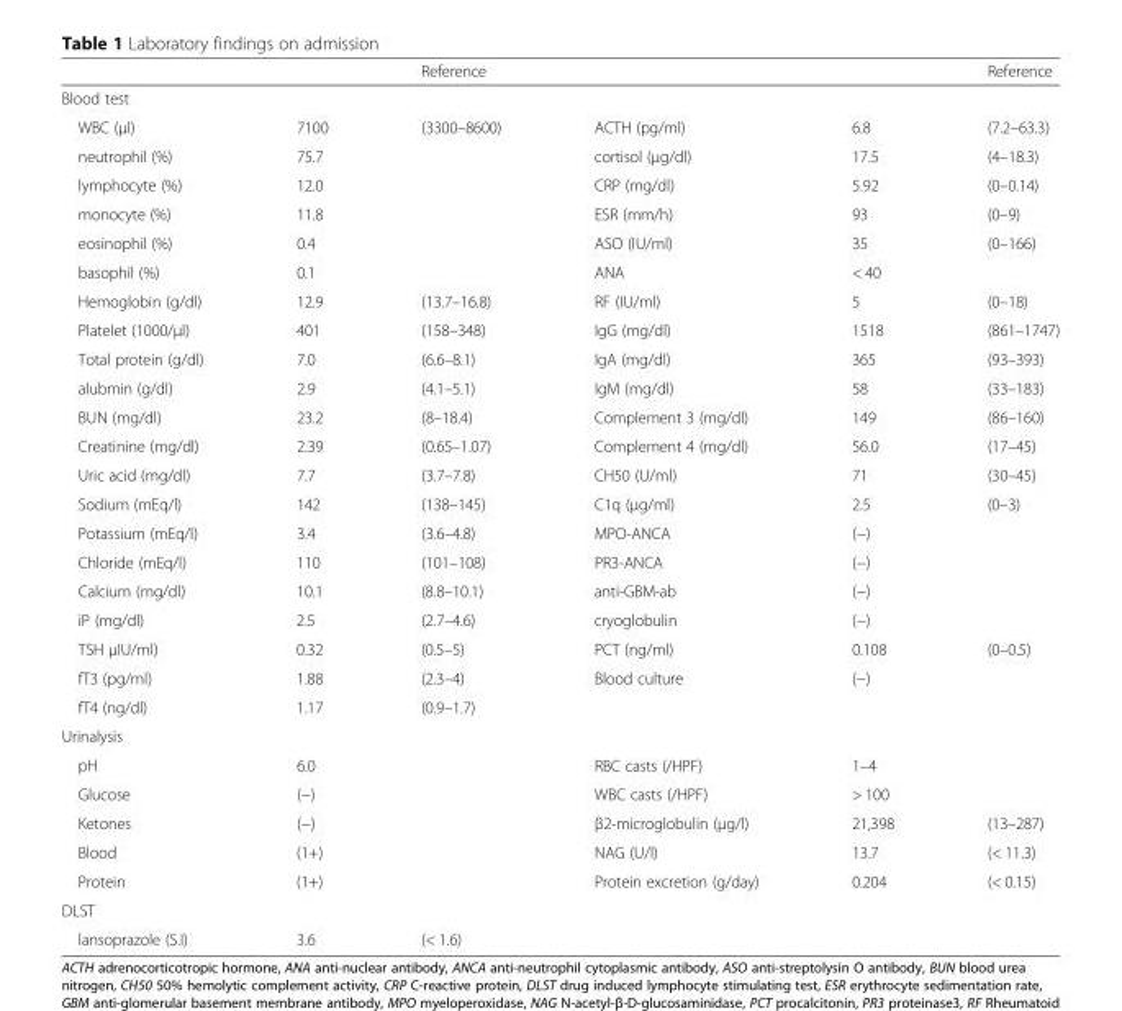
<table><thead><tr><td></td><td></td><td>Reference</td><td></td><td></td><td>Reference</td></tr></thead><tbody><tr><td colspan="6">Blood test</td></tr><tr><td>WBC (μl)</td><td>7100</td><td>(3300–8600)</td><td>ACTH (pg/ml)</td><td>6.8</td><td>(7.2–63.3)</td></tr><tr><td>neutrophil (%)</td><td>75.7</td><td></td><td>cortisol (μg/dl)</td><td>17.5</td><td>(4–18.3)</td></tr><tr><td>lymphocyte (%)</td><td>12.0</td><td></td><td>CRP (mg/dl)</td><td>5.92</td><td>(0–0.14)</td></tr><tr><td>monocyte (%)</td><td>11.8</td><td></td><td>ESR (mm/h)</td><td>93</td><td>(0–9)</td></tr><tr><td>eosinophil (%)</td><td>0.4</td><td></td><td>ASO (IU/ml)</td><td>35</td><td>(0–166)</td></tr><tr><td>basophil (%)</td><td>0.1</td><td></td><td>ANA</td><td>&lt; 40</td><td></td></tr><tr><td>Hemoglobin (g/dl)</td><td>12.9</td><td>(13.7–16.8)</td><td>RF (IU/ml)</td><td>5</td><td>(0–18)</td></tr><tr><td>Platelet (1000/μl)</td><td>401</td><td>(158–348)</td><td>IgG (mg/dl)</td><td>1518</td><td>(861–1747)</td></tr><tr><td>Total protein (g/dl)</td><td>7.0</td><td>(6.6–8.1)</td><td>IgA (mg/dl)</td><td>365</td><td>(93–393)</td></tr><tr><td>alubmin (g/dl)</td><td>2.9</td><td>(4.1–5.1)</td><td>IgM (mg/dl)</td><td>58</td><td>(33–183)</td></tr><tr><td>BUN (mg/dl)</td><td>23.2</td><td>(8–18.4)</td><td>Complement 3 (mg/dl)</td><td>149</td><td>(86–160)</td></tr><tr><td>Creatinine (mg/dl)</td><td>2.39</td><td>(0.65–1.07)</td><td>Complement 4 (mg/dl)</td><td>56.0</td><td>(17–45)</td></tr><tr><td>Uric acid (mg/dl)</td><td>7.7</td><td>(3.7–7.8)</td><td>CH50 (U/ml)</td><td>71</td><td>(30–45)</td></tr><tr><td>Sodium (mEq/l)</td><td>142</td><td>(138–145)</td><td>C1q (μg/ml)</td><td>2.5</td><td>(0–3)</td></tr><tr><td>Potassium (mEq/l)</td><td>3.4</td><td>(3.6–4.8)</td><td>MPO-ANCA</td><td>(−)</td><td></td></tr><tr><td>Chloride (mEq/l)</td><td>110</td><td>(101–108)</td><td>PR3-ANCA</td><td>(−)</td><td></td></tr><tr><td>Calcium (mg/dl)</td><td>10.1</td><td>(8.8–10.1)</td><td>anti-GBM-ab</td><td>(−)</td><td></td></tr><tr><td>iP (mg/dl)</td><td>2.5</td><td>(2.7–4.6)</td><td>cryoglobulin</td><td>(−)</td><td></td></tr><tr><td>TSH μIU/ml)</td><td>0.32</td><td>(0.5–5)</td><td>PCT (ng/ml)</td><td>0.108</td><td>(0–0.5)</td></tr><tr><td>fT3 (pg/ml)</td><td>1.88</td><td>(2.3–4)</td><td>Blood culture</td><td>(−)</td><td></td></tr><tr><td>fT4 (ng/dl)</td><td>1.17</td><td>(0.9–1.7)</td><td></td><td></td><td></td></tr><tr><td colspan="6">Urinalysis</td></tr><tr><td>pH</td><td>6.0</td><td></td><td>RBC casts (/HPF)</td><td>1–4</td><td></td></tr><tr><td>Glucose</td><td>(−)</td><td></td><td>WBC casts (/HPF)</td><td>&gt; 100</td><td></td></tr><tr><td>Ketones</td><td>(−)</td><td></td><td>β2-microglobulin (μg/l)</td><td>21,398</td><td>(13–287)</td></tr><tr><td>Blood</td><td>(1+)</td><td></td><td>NAG (U/l)</td><td>13.7</td><td>(&lt; 11.3)</td></tr><tr><td>Protein</td><td>(1+)</td><td></td><td>Protein excretion (g/day)</td><td>0.204</td><td>(&lt; 0.15)</td></tr><tr><td colspan="6">DLST</td></tr><tr><td>lansoprazole (S.I)</td><td>3.6</td><td>(&lt; 1.6)</td><td></td><td></td><td></td></tr></tbody></table>